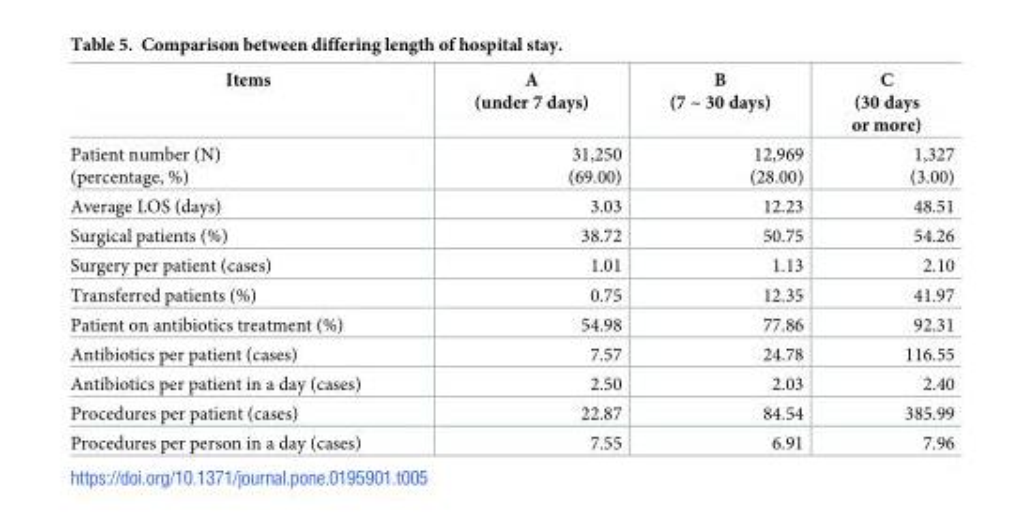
<table><thead><tr><td>Items</td><td>A (under 7 days)</td><td>B (7 ~ 30 days)</td><td>C (30 days or more)</td></tr></thead><tbody><tr><td>Patient number (N) (percentage, %)</td><td>31,250 (69.00)</td><td>12,969 (28.00)</td><td>1,327 (3.00)</td></tr><tr><td>Average LOS (days)</td><td>3.03</td><td>12.23</td><td>48.51</td></tr><tr><td>Surgical patients (%)</td><td>38.72</td><td>50.75</td><td>54.26</td></tr><tr><td>Surgery per patient (cases)</td><td>1.01</td><td>1.13</td><td>2.10</td></tr><tr><td>Transferred patients (%)</td><td>0.75</td><td>12.35</td><td>41.97</td></tr><tr><td>Patient on antibiotics treatment (%)</td><td>54.98</td><td>77.86</td><td>92.31</td></tr><tr><td>Antibiotics per patient (cases)</td><td>7.57</td><td>24.78</td><td>116.55</td></tr><tr><td>Antibiotics per patient in a day (cases)</td><td>2.50</td><td>2.03</td><td>2.40</td></tr><tr><td>Procedures per patient (cases)</td><td>22.87</td><td>84.54</td><td>385.99</td></tr><tr><td>Procedures per person in a day (cases)</td><td>7.55</td><td>6.91</td><td>7.96</td></tr></tbody></table>